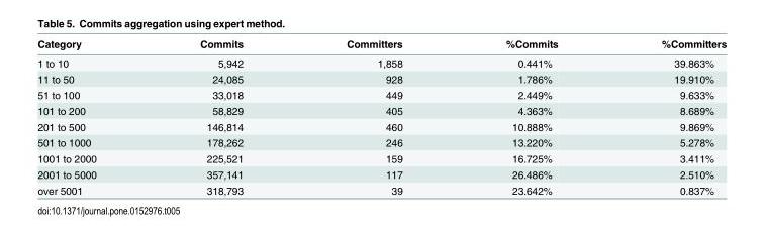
<table><thead><tr><td>Category</td><td>Commits</td><td>Committers</td><td>%Commits</td><td>%Committers</td></tr></thead><tbody><tr><td>1 to 10</td><td>5,942</td><td>1,858</td><td>0.441%</td><td>39.863%</td></tr><tr><td>11 to 50</td><td>24,085</td><td>928</td><td>1.786%</td><td>19.910%</td></tr><tr><td>51 to 100</td><td>33,018</td><td>449</td><td>2.449%</td><td>9.633%</td></tr><tr><td>101 to 200</td><td>58,829</td><td>405</td><td>4.363%</td><td>8.689%</td></tr><tr><td>201 to 500</td><td>146,814</td><td>460</td><td>10.888%</td><td>9.869%</td></tr><tr><td>501 to 1000</td><td>178,262</td><td>246</td><td>13.220%</td><td>5.278%</td></tr><tr><td>1001 to 2000</td><td>225,521</td><td>159</td><td>16.725%</td><td>3.411%</td></tr><tr><td>2001 to 5000</td><td>357,141</td><td>117</td><td>26.486%</td><td>2.510%</td></tr><tr><td>over 5001</td><td>318,793</td><td>39</td><td>23.642%</td><td>0.837%</td></tr></tbody></table>